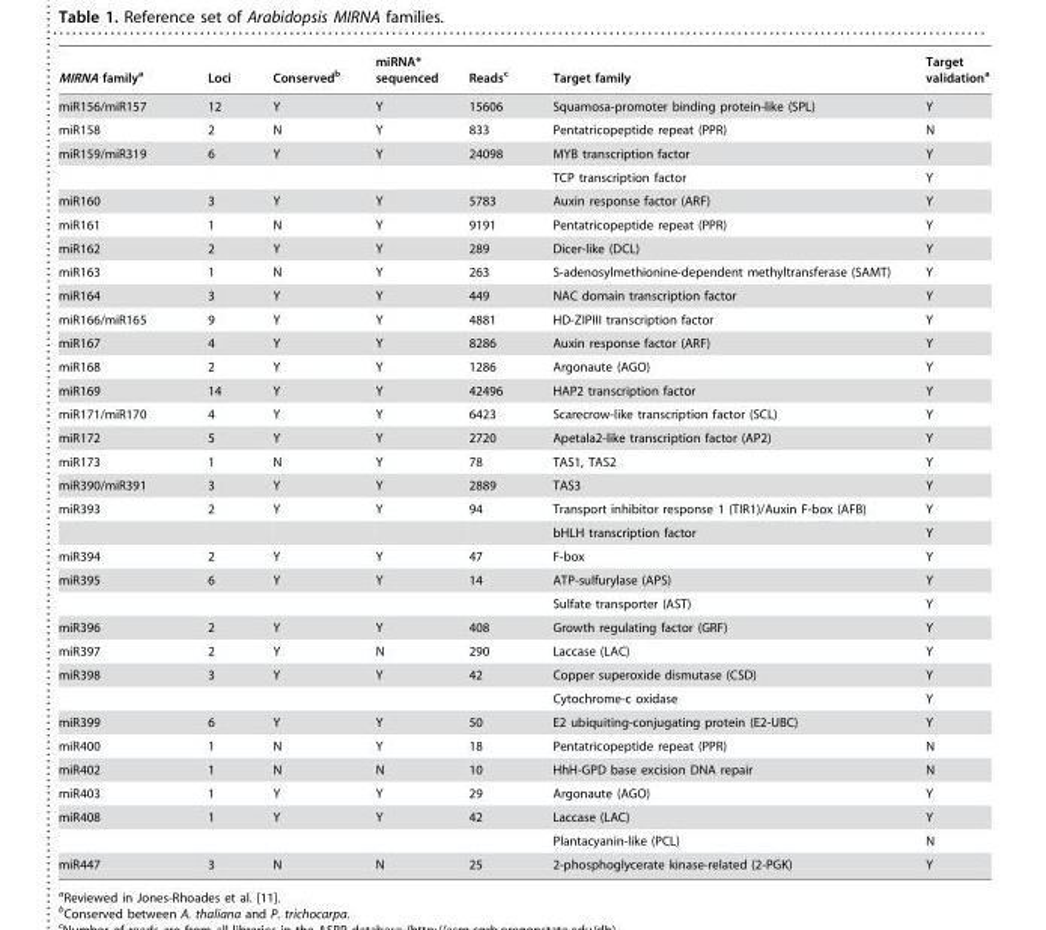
<table><thead><tr><td>MIRNA family<sup>a</sup></td><td>Loci</td><td>Conserved<sup>b</sup></td><td>miRNA* sequenced</td><td>Reads<sup>c</sup></td><td>Target family</td><td>Target validation<sup>a</sup></td></tr></thead><tbody><tr><td>miR156/miR157</td><td>12</td><td>Y</td><td>Y</td><td>15606</td><td>Squamosa-promoter binding protein-like (SPL)</td><td>Y</td></tr><tr><td>miR158</td><td>2</td><td>N</td><td>Y</td><td>833</td><td>Pentatricopeptide repeat (PPR)</td><td>N</td></tr><tr><td rowspan="2">miR159/miR319</td><td>6</td><td>Y</td><td>Y</td><td>24098</td><td>MYB transcription factor</td><td>Y</td></tr><tr><td></td><td></td><td></td><td></td><td>TCP transcription factor</td><td>Y</td></tr><tr><td>miR160</td><td>3</td><td>Y</td><td>Y</td><td>5783</td><td>Auxin response factor (ARF)</td><td>Y</td></tr><tr><td>miR161</td><td>1</td><td>N</td><td>Y</td><td>9191</td><td>Pentatricopeptide repeat (PPR)</td><td>Y</td></tr><tr><td>miR162</td><td>2</td><td>Y</td><td>Y</td><td>289</td><td>Dicer-like (DCL)</td><td>Y</td></tr><tr><td>miR163</td><td>1</td><td>N</td><td>Y</td><td>263</td><td>S-adenosylmethionine-dependent methyltransferase (SAMT)</td><td>Y</td></tr><tr><td>miR164</td><td>3</td><td>Y</td><td>Y</td><td>449</td><td>NAC domain transcription factor</td><td>Y</td></tr><tr><td>miR166/miR165</td><td>9</td><td>Y</td><td>Y</td><td>4881</td><td>HD-ZIPIII transcription factor</td><td>Y</td></tr><tr><td>miR167</td><td>4</td><td>Y</td><td>Y</td><td>8286</td><td>Auxin response factor (ARF)</td><td>Y</td></tr><tr><td>miR168</td><td>2</td><td>Y</td><td>Y</td><td>1286</td><td>Argonaute (AGO)</td><td>Y</td></tr><tr><td>miR169</td><td>14</td><td>Y</td><td>Y</td><td>42496</td><td>HAP2 transcription factor</td><td>Y</td></tr><tr><td>miR171/miR170</td><td>4</td><td>Y</td><td>Y</td><td>6423</td><td>Scarecrow-like transcription factor (SCL)</td><td>Y</td></tr><tr><td>miR172</td><td>5</td><td>Y</td><td>Y</td><td>2720</td><td>Apetala2-like transcription factor (AP2)</td><td>Y</td></tr><tr><td>miR173</td><td>1</td><td>N</td><td>Y</td><td>78</td><td>TAS1, TAS2</td><td>Y</td></tr><tr><td>miR390/miR391</td><td>3</td><td>Y</td><td>Y</td><td>2889</td><td>TAS3</td><td>Y</td></tr><tr><td rowspan="2">miR393</td><td>2</td><td>Y</td><td>Y</td><td>94</td><td>Transport inhibitor response 1 (TIR1)/Auxin F-box (AFB)</td><td>Y</td></tr><tr><td></td><td></td><td></td><td></td><td>bHLH transcription factor</td><td>Y</td></tr><tr><td>miR394</td><td>2</td><td>Y</td><td>Y</td><td>47</td><td>F-box</td><td>Y</td></tr><tr><td rowspan="2">miR395</td><td>6</td><td>Y</td><td>Y</td><td>14</td><td>ATP-sulfurylase (APS)</td><td>Y</td></tr><tr><td></td><td></td><td></td><td></td><td>Sulfate transporter (AST)</td><td>Y</td></tr><tr><td>miR396</td><td>2</td><td>Y</td><td>Y</td><td>408</td><td>Growth regulating factor (GRF)</td><td>Y</td></tr><tr><td>miR397</td><td>2</td><td>Y</td><td>N</td><td>290</td><td>Laccase (LAC)</td><td>Y</td></tr><tr><td rowspan="2">miR398</td><td>3</td><td>Y</td><td>Y</td><td>42</td><td>Copper superoxide dismutase (CSD)</td><td>Y</td></tr><tr><td></td><td></td><td></td><td></td><td>Cytochrome-c oxidase</td><td>Y</td></tr><tr><td>miR399</td><td>6</td><td>Y</td><td>Y</td><td>50</td><td>E2 ubiquiting-conjugating protein (E2-UBC)</td><td>Y</td></tr><tr><td>miR400</td><td>1</td><td>N</td><td>Y</td><td>18</td><td>Pentatricopeptide repeat (PPR)</td><td>N</td></tr><tr><td>miR402</td><td>1</td><td>N</td><td>N</td><td>10</td><td>HhH-GPD base excision DNA repair</td><td>N</td></tr><tr><td>miR403</td><td>1</td><td>Y</td><td>Y</td><td>29</td><td>Argonaute (AGO)</td><td>Y</td></tr><tr><td rowspan="2">miR408</td><td>1</td><td>Y</td><td>Y</td><td>42</td><td>Laccase (LAC)</td><td>Y</td></tr><tr><td></td><td></td><td></td><td></td><td>Plantacyanin-like (PCL)</td><td>N</td></tr><tr><td>miR447</td><td>3</td><td>N</td><td>N</td><td>25</td><td>2-phosphoglycerate kinase-related (2-PGK)</td><td>Y</td></tr></tbody></table>